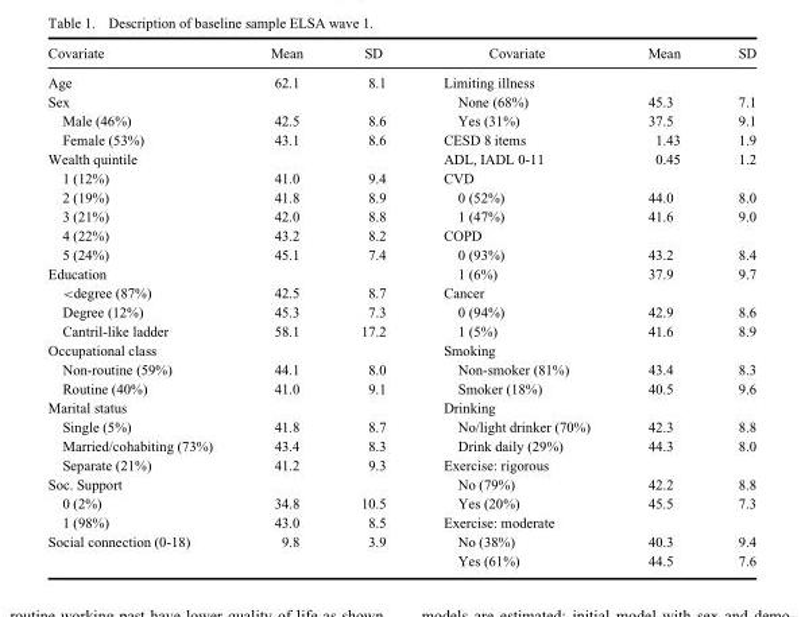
<table><thead><tr><td>Covariate</td><td>Mean</td><td>SD</td><td>Covariate</td><td>Mean</td><td>SD</td></tr></thead><tbody><tr><td>Age</td><td>62.1</td><td>8.1</td><td>Limiting illness</td><td></td><td></td></tr><tr><td>Sex</td><td></td><td></td><td>None (68%)</td><td>45.3</td><td>7.1</td></tr><tr><td>Male (46%)</td><td>42.5</td><td>8.6</td><td>Yes (31%)</td><td>37.5</td><td>9.1</td></tr><tr><td>Female (53%)</td><td>43.1</td><td>8.6</td><td>CESD 8 items</td><td>1.43</td><td>1.9</td></tr><tr><td>Wealth quintile</td><td></td><td></td><td>ADL, IADL 0-11</td><td>0.45</td><td>1.2</td></tr><tr><td>1 (12%)</td><td>41.0</td><td>9.4</td><td>CVD</td><td></td><td></td></tr><tr><td>2 (19%)</td><td>41.8</td><td>8.9</td><td>0 (52%)</td><td>44.0</td><td>8.0</td></tr><tr><td>3 (21%)</td><td>42.0</td><td>8.8</td><td>1 (47%)</td><td>41.6</td><td>9.0</td></tr><tr><td>4 (22%)</td><td>43.2</td><td>8.2</td><td>COPD</td><td></td><td></td></tr><tr><td>5 (24%)</td><td>45.1</td><td>7.4</td><td>0 (93%)</td><td>43.2</td><td>8.4</td></tr><tr><td>Education</td><td></td><td></td><td>1 (6%)</td><td>37.9</td><td>9.7</td></tr><tr><td>&lt;degree (87%)</td><td>42.5</td><td>8.7</td><td>Cancer</td><td></td><td></td></tr><tr><td>Degree (12%)</td><td>45.3</td><td>7.3</td><td>0 (94%)</td><td>42.9</td><td>8.6</td></tr><tr><td>Cantril-like ladder</td><td>58.1</td><td>17.2</td><td>1 (5%)</td><td>41.6</td><td>8.9</td></tr><tr><td>Occupational class</td><td></td><td></td><td>Smoking</td><td></td><td></td></tr><tr><td>Non-routine (59%)</td><td>44.1</td><td>8.0</td><td>Non-smoker (81%)</td><td>43.4</td><td>8.3</td></tr><tr><td>Routine (40%)</td><td>41.0</td><td>9.1</td><td>Smoker (18%)</td><td>40.5</td><td>9.6</td></tr><tr><td>Marital status</td><td></td><td></td><td>Drinking</td><td></td><td></td></tr><tr><td>Single (5%)</td><td>41.8</td><td>8.7</td><td>No/light drinker (70%)</td><td>42.3</td><td>8.8</td></tr><tr><td>Married/cohabiting (73%)</td><td>43.4</td><td>8.3</td><td>Drink daily (29%)</td><td>44.3</td><td>8.0</td></tr><tr><td>Separate (21%)</td><td>41.2</td><td>9.3</td><td>Exercise: rigorous</td><td></td><td></td></tr><tr><td>Soc. Support</td><td></td><td></td><td>No (79%)</td><td>42.2</td><td>8.8</td></tr><tr><td>0 (2%)</td><td>34.8</td><td>10.5</td><td>Yes (20%)</td><td>45.5</td><td>7.3</td></tr><tr><td>1 (98%)</td><td>43.0</td><td>8.5</td><td>Exercise: moderate</td><td></td><td></td></tr><tr><td rowspan="2">Social connection (0-18)</td><td>9.8</td><td>3.9</td><td>No (38%)</td><td>40.3</td><td>9.4</td></tr><tr><td></td><td></td><td>Yes (61%)</td><td>44.5</td><td>7.6</td></tr></tbody></table>